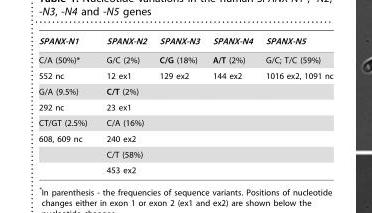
<table><thead><tr><td>SPANX-N1</td><td>SPANX-N2</td><td>SPANX-N3</td><td>SPANX-N4</td><td>SPANX-N5</td></tr></thead><tbody><tr><td>C/A (50%)*</td><td>G/C (2%)</td><td>C/G (18%)</td><td>A/T (2%)</td><td>G/C; T/C (59%)</td></tr><tr><td>552 nc</td><td>12 ex1</td><td>129 ex2</td><td>144 ex2</td><td>1016 ex2, 1091 nc</td></tr><tr><td>G/A (9.5%)</td><td>C/T (2%)</td><td></td><td></td><td></td></tr><tr><td>292 nc</td><td>23 ex1</td><td></td><td></td><td></td></tr><tr><td>CT/GT (2.5%)</td><td>C/A (16%)</td><td></td><td></td><td></td></tr><tr><td rowspan="3">608, 609 nc</td><td>240 ex2</td><td></td><td></td><td></td></tr><tr><td>C/T (58%)</td><td></td><td></td><td></td></tr><tr><td>453 ex2</td><td></td><td></td><td></td></tr></tbody></table>